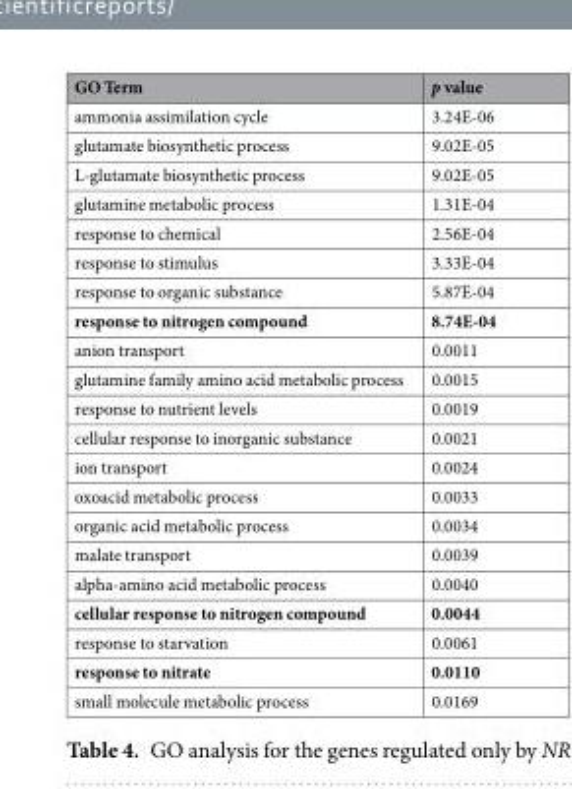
<table><thead><tr><td>GO Term</td><td>p value</td></tr></thead><tbody><tr><td>ammonia assimilation cycle</td><td>3.24E-06</td></tr><tr><td>glutamate biosynthetic process</td><td>9.02E-05</td></tr><tr><td>L-glutamate biosynthetic process</td><td>9.02E-05</td></tr><tr><td>glutamine metabolic process</td><td>1.31E-04</td></tr><tr><td>response to chemical</td><td>2.56E-04</td></tr><tr><td>response to stimulus</td><td>3.33E-04</td></tr><tr><td>response to organic substance</td><td>5.87E-04</td></tr><tr><td>response to nitrogen compound</td><td>8.74E-04</td></tr><tr><td>anion transport</td><td>0.0011</td></tr><tr><td>glutamine family amino acid metabolic process</td><td>0.0015</td></tr><tr><td>response to nutrient levels</td><td>0.0019</td></tr><tr><td>cellular response to inorganic substance</td><td>0.0021</td></tr><tr><td>ion transport</td><td>0.0024</td></tr><tr><td>oxoacid metabolic process</td><td>0.0033</td></tr><tr><td>organic acid metabolic process</td><td>0.0034</td></tr><tr><td>malate transport</td><td>0.0039</td></tr><tr><td>alpha-amino acid metabolic process</td><td>0.0040</td></tr><tr><td>cellular response to nitrogen compound</td><td>0.0044</td></tr><tr><td>response to starvation</td><td>0.0061</td></tr><tr><td>response to nitrate</td><td>0.0110</td></tr><tr><td>small molecule metabolic process</td><td>0.0169</td></tr></tbody></table>